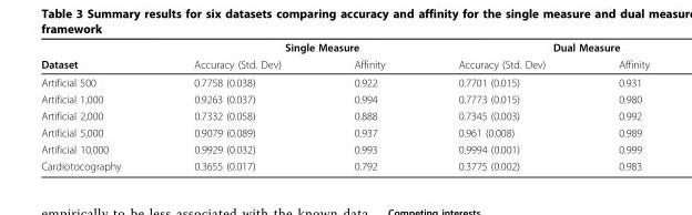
<table><thead><tr><td rowspan="2">Dataset</td><td colspan="2">Single Measure</td><td colspan="2">Dual Measure</td></tr><tr><td>Accuracy (Std. Dev)</td><td>Affinity</td><td>Accuracy (Std. Dev)</td><td>Affinity</td></tr></thead><tbody><tr><td>Artificial 500</td><td>0.7758 (0.038)</td><td>0.922</td><td>0.7701 (0.015)</td><td>0.931</td></tr><tr><td>Artificial 1,000</td><td>0.9263 (0.037)</td><td>0.994</td><td>0.7773 (0.015)</td><td>0.980</td></tr><tr><td>Artificial 2,000</td><td>0.7332 (0.058)</td><td>0.888</td><td>0.7345 (0.003)</td><td>0.992</td></tr><tr><td>Artificial 5,000</td><td>0.9079 (0.089)</td><td>0.937</td><td>0.961 (0.008)</td><td>0.989</td></tr><tr><td>Artificial 10,000</td><td>0.9929 (0.032)</td><td>0.993</td><td>0.9994 (0.001)</td><td>0.999</td></tr><tr><td>Cardiotocography</td><td>0.3655 (0.017)</td><td>0.792</td><td>0.3775 (0.002)</td><td>0.983</td></tr></tbody></table>